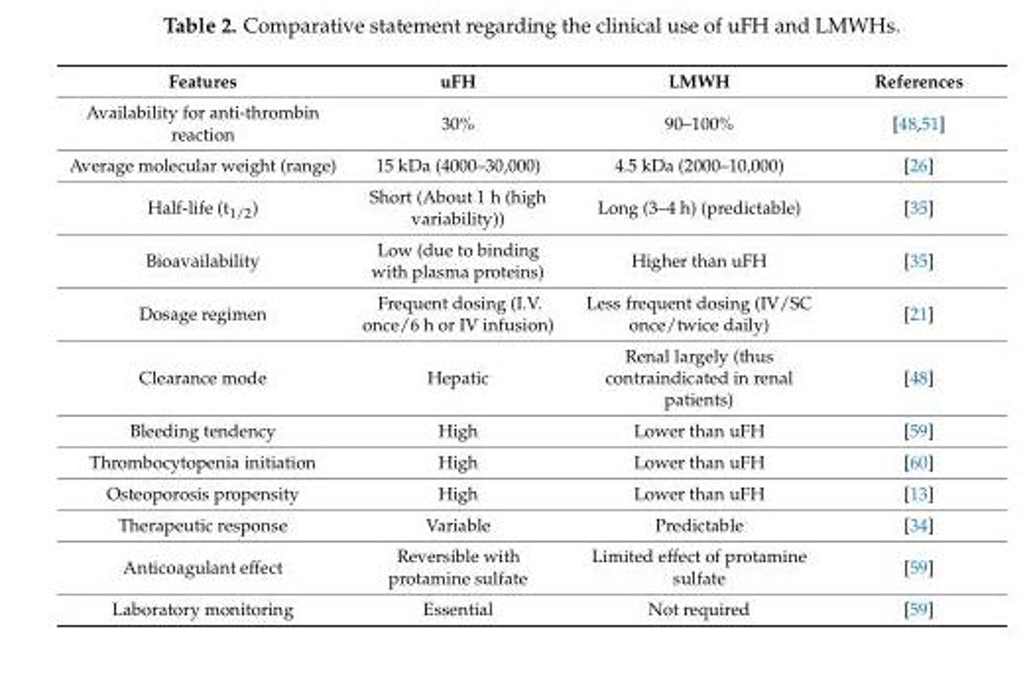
<table><thead><tr><td>Features</td><td>uFH</td><td>LMWH</td><td>References</td></tr></thead><tbody><tr><td>Availability for anti-thrombin reaction</td><td>30%</td><td>90–100%</td><td>[48,51]</td></tr><tr><td>Average molecular weight (range)</td><td>15 kDa (4000–30,000)</td><td>4.5 kDa (2000–10,000)</td><td>[26]</td></tr><tr><td>Half-life (t<sub>1/2</sub>)</td><td>Short (About 1 h (high variability))</td><td>Long (3–4 h) (predictable)</td><td>[35]</td></tr><tr><td>Bioavailability</td><td>Low (due to binding with plasma proteins)</td><td>Higher than uFH</td><td>[35]</td></tr><tr><td>Dosage regimen</td><td>Frequent dosing (I.V. once/6 h or IV infusion)</td><td>Less frequent dosing (IV/SC once/twice daily)</td><td>[21]</td></tr><tr><td>Clearance mode</td><td>Hepatic</td><td>Renal largely (thus contraindicated in renal patients)</td><td>[48]</td></tr><tr><td>Bleeding tendency</td><td>High</td><td>Lower than uFH</td><td>[59]</td></tr><tr><td>Thrombocytopenia initiation</td><td>High</td><td>Lower than uFH</td><td>[60]</td></tr><tr><td>Osteoporosis propensity</td><td>High</td><td>Lower than uFH</td><td>[13]</td></tr><tr><td>Therapeutic response</td><td>Variable</td><td>Predictable</td><td>[34]</td></tr><tr><td>Anticoagulant effect</td><td>Reversible with protamine sulfate</td><td>Limited effect of protamine sulfate</td><td>[59]</td></tr><tr><td>Laboratory monitoring</td><td>Essential</td><td>Not required</td><td>[59]</td></tr></tbody></table>